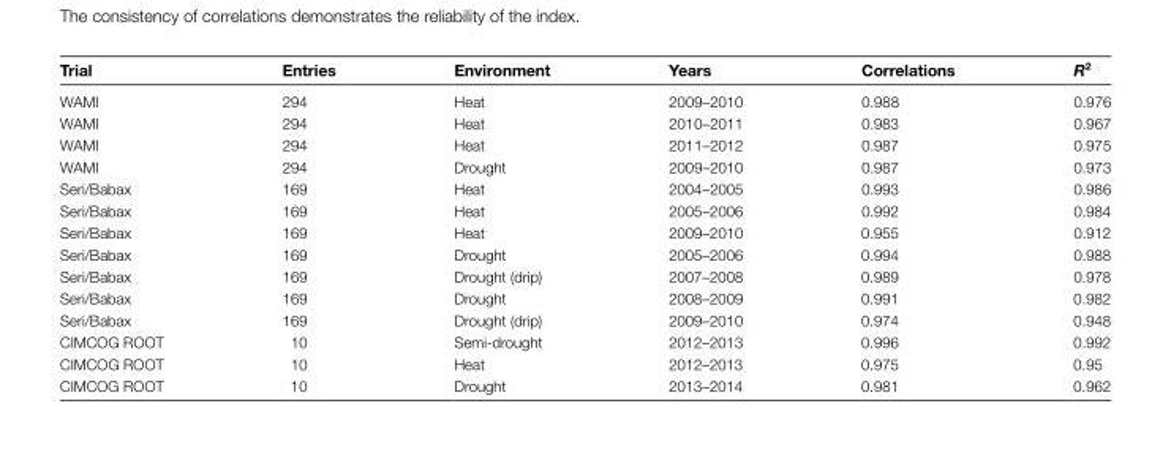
<table><thead><tr><td>Trial</td><td>Entries</td><td>Environment</td><td>Years</td><td>Correlations</td><td>R<sup>2</sup></td></tr></thead><tbody><tr><td>WAMI</td><td>294</td><td>Heat</td><td>2009–2010</td><td>0.988</td><td>0.976</td></tr><tr><td>WAMI</td><td>294</td><td>Heat</td><td>2010–2011</td><td>0.983</td><td>0.967</td></tr><tr><td>WAMI</td><td>294</td><td>Heat</td><td>2011–2012</td><td>0.987</td><td>0.975</td></tr><tr><td>WAMI</td><td>294</td><td>Drought</td><td>2009–2010</td><td>0.987</td><td>0.973</td></tr><tr><td>Seri/Babax</td><td>169</td><td>Heat</td><td>2004–2005</td><td>0.993</td><td>0.986</td></tr><tr><td>Seri/Babax</td><td>169</td><td>Heat</td><td>2005–2006</td><td>0.992</td><td>0.984</td></tr><tr><td>Seri/Babax</td><td>169</td><td>Heat</td><td>2009–2010</td><td>0.955</td><td>0.912</td></tr><tr><td>Seri/Babax</td><td>169</td><td>Drought</td><td>2005–2006</td><td>0.994</td><td>0.988</td></tr><tr><td>Seri/Babax</td><td>169</td><td>Drought (drip)</td><td>2007–2008</td><td>0.989</td><td>0.978</td></tr><tr><td>Seri/Babax</td><td>169</td><td>Drought</td><td>2008–2009</td><td>0.991</td><td>0.982</td></tr><tr><td>Seri/Babax</td><td>169</td><td>Drought (drip)</td><td>2009–2010</td><td>0.974</td><td>0.948</td></tr><tr><td>CIMCOG ROOT</td><td>10</td><td>Semi-drought</td><td>2012–2013</td><td>0.996</td><td>0.992</td></tr><tr><td>CIMCOG ROOT</td><td>10</td><td>Heat</td><td>2012–2013</td><td>0.975</td><td>0.95</td></tr><tr><td>CIMCOG ROOT</td><td>10</td><td>Drought</td><td>2013–2014</td><td>0.981</td><td>0.962</td></tr></tbody></table>